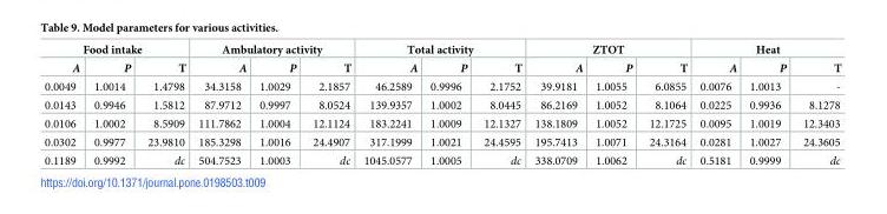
<table><thead><tr><td colspan="3">Food intake</td><td colspan="3">Ambulatory activity</td><td colspan="3">Total activity</td><td colspan="3">ZTOT</td><td colspan="3">Heat</td></tr><tr><td>A</td><td>P</td><td>T</td><td>A</td><td>P</td><td>T</td><td>A</td><td>P</td><td>T</td><td>A</td><td>P</td><td>T</td><td>A</td><td>P</td><td>T</td></tr></thead><tbody><tr><td>0.0049</td><td>1.0014</td><td>1.4798</td><td>34.3158</td><td>1.0029</td><td>2.1857</td><td>46.2589</td><td>0.9996</td><td>2.1752</td><td>39.9181</td><td>1.0055</td><td>6.0855</td><td>0.0076</td><td>1.0013</td><td>-</td></tr><tr><td>0.0143</td><td>0.9946</td><td>1.5812</td><td>87.9712</td><td>0.9997</td><td>8.0524</td><td>139.9357</td><td>1.0002</td><td>8.0445</td><td>86.2169</td><td>1.0052</td><td>8.1064</td><td>0.0225</td><td>0.9936</td><td>8.1278</td></tr><tr><td>0.0106</td><td>1.0002</td><td>8.5909</td><td>111.7862</td><td>1.0004</td><td>12.1124</td><td>183.2241</td><td>1.0009</td><td>12.1327</td><td>138.1809</td><td>1.0052</td><td>12.1725</td><td>0.0095</td><td>1.0019</td><td>12.3403</td></tr><tr><td>0.0302</td><td>0.9977</td><td>23.9810</td><td>185.3298</td><td>1.0016</td><td>24.4907</td><td>317.1999</td><td>1.0021</td><td>24.4595</td><td>195.7413</td><td>1.0071</td><td>24.3164</td><td>0.0281</td><td>1.0027</td><td>24.3605</td></tr><tr><td>0.1189</td><td>0.9992</td><td>dc</td><td>504.7523</td><td>1.0003</td><td>dc</td><td>1045.0577</td><td>1.0005</td><td>dc</td><td>338.0709</td><td>1.0062</td><td>dc</td><td>0.5181</td><td>0.9999</td><td>dc</td></tr></tbody></table>